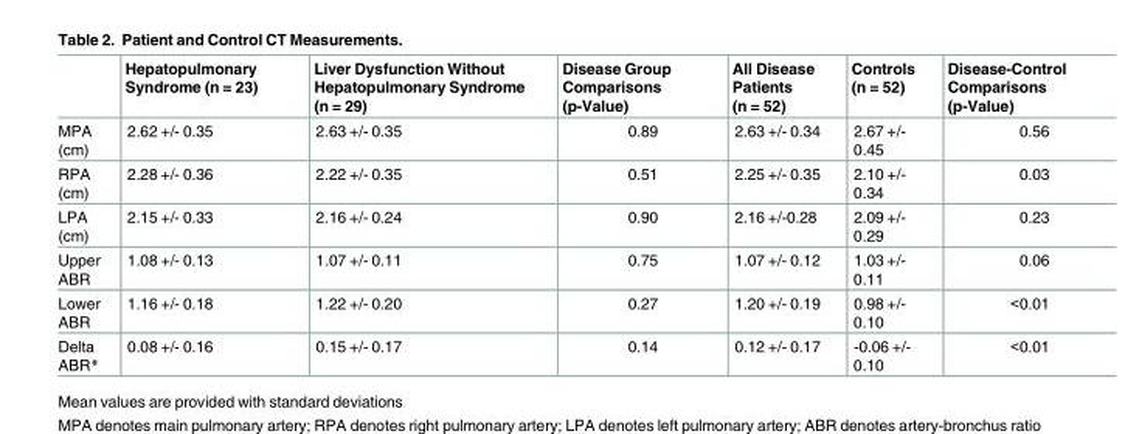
<table><thead><tr><td></td><td>Hepatopulmonary Syndrome (n = 23)</td><td>Liver Dysfunction Without Hepatopulmonary Syndrome (n = 29)</td><td>Disease Group Comparisons (p-Value)</td><td>All Disease Patients (n = 52)</td><td>Controls (n = 52)</td><td>Disease-Control Comparisons (p-Value)</td></tr></thead><tbody><tr><td>MPA (cm)</td><td>2.62 +/- 0.35</td><td>2.63 +/- 0.35</td><td>0.89</td><td>2.63 +/- 0.34</td><td>2.67 +/- 0.45</td><td>0.56</td></tr><tr><td>RPA (cm)</td><td>2.28 +/- 0.36</td><td>2.22 +/- 0.35</td><td>0.51</td><td>2.25 +/- 0.35</td><td>2.10 +/- 0.34</td><td>0.03</td></tr><tr><td>LPA (cm)</td><td>2.15 +/- 0.33</td><td>2.16 +/- 0.24</td><td>0.90</td><td>2.16 +/-0.28</td><td>2.09 +/- 0.29</td><td>0.23</td></tr><tr><td>Upper ABR</td><td>1.08 +/- 0.13</td><td>1.07 +/- 0.11</td><td>0.75</td><td>1.07 +/- 0.12</td><td>1.03 +/- 0.11</td><td>0.06</td></tr><tr><td>Lower ABR</td><td>1.16 +/- 0.18</td><td>1.22 +/- 0.20</td><td>0.27</td><td>1.20 +/- 0.19</td><td>0.98 +/- 0.10</td><td>&lt;0.01</td></tr><tr><td>Delta ABR*</td><td>0.08 +/- 0.16</td><td>0.15 +/- 0.17</td><td>0.14</td><td>0.12 +/- 0.17</td><td>-0.06 +/- 0.10</td><td>&lt;0.01</td></tr></tbody></table>